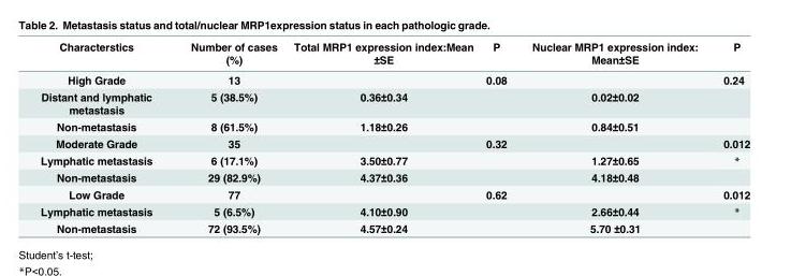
<table><thead><tr><td>Characterstics</td><td>Number of cases (%)</td><td>Total MRP1 expression index:Mean ±SE</td><td>P</td><td>Nuclear MRP1 expression index: Mean±SE</td><td>P</td></tr></thead><tbody><tr><td>High Grade</td><td>13</td><td></td><td>0.08</td><td></td><td>0.24</td></tr><tr><td>Distant and lymphatic metastasis</td><td>5 (38.5%)</td><td>0.36±0.34</td><td></td><td>0.02±0.02</td><td></td></tr><tr><td>Non-metastasis</td><td>8 (61.5%)</td><td>1.18±0.26</td><td></td><td>0.84±0.51</td><td></td></tr><tr><td>Moderate Grade</td><td>35</td><td></td><td>0.32</td><td></td><td>0.012</td></tr><tr><td>Lymphatic metastasis</td><td>6 (17.1%)</td><td>3.50±0.77</td><td></td><td>1.27±0.65</td><td>*</td></tr><tr><td>Non-metastasis</td><td>29 (82.9%)</td><td>4.37±0.36</td><td></td><td>4.18±0.48</td><td></td></tr><tr><td>Low Grade</td><td>77</td><td></td><td>0.62</td><td></td><td>0.012</td></tr><tr><td>Lymphatic metastasis</td><td>5 (6.5%)</td><td>4.10±0.90</td><td></td><td>2.66±0.44</td><td>*</td></tr><tr><td>Non-metastasis</td><td>72 (93.5%)</td><td>4.57±0.24</td><td></td><td>5.70 ±0.31</td><td></td></tr></tbody></table>